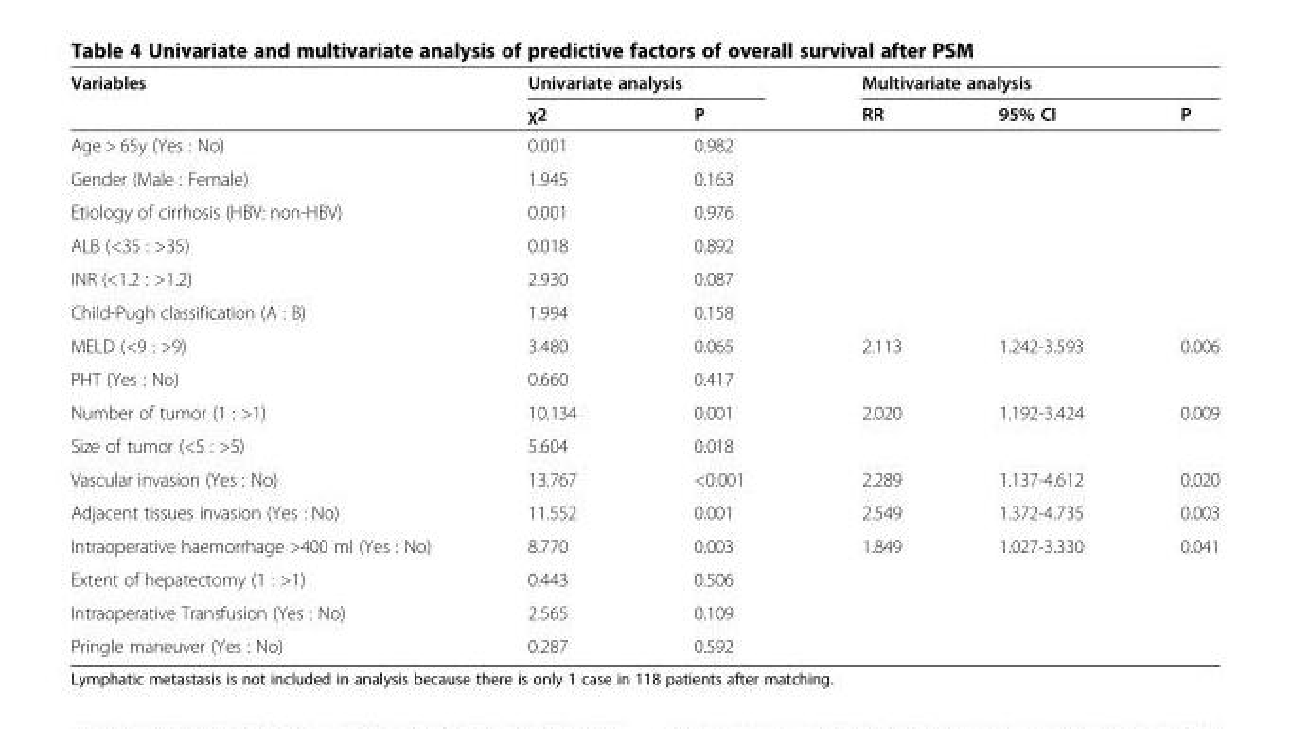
<table><thead><tr><td rowspan="2">Variables</td><td colspan="2">Univariate analysis</td><td colspan="3">Multivariate analysis</td></tr><tr><td>χ2</td><td>P</td><td>RR</td><td>95% CI</td><td>P</td></tr></thead><tbody><tr><td>Age &gt; 65y (Yes : No)</td><td>0.001</td><td>0.982</td><td></td><td></td><td></td></tr><tr><td>Gender (Male : Female)</td><td>1.945</td><td>0.163</td><td></td><td></td><td></td></tr><tr><td>Etiology of cirrhosis (HBV: non-HBV)</td><td>0.001</td><td>0.976</td><td></td><td></td><td></td></tr><tr><td>ALB (&lt;35 : &gt;35)</td><td>0.018</td><td>0.892</td><td></td><td></td><td></td></tr><tr><td>INR (&lt;1.2 : &gt;1.2)</td><td>2.930</td><td>0.087</td><td></td><td></td><td></td></tr><tr><td>Child-Pugh classification (A : B)</td><td>1.994</td><td>0.158</td><td></td><td></td><td></td></tr><tr><td>MELD (&lt;9 : &gt;9)</td><td>3.480</td><td>0.065</td><td>2.113</td><td>1.242-3.593</td><td>0.006</td></tr><tr><td>PHT (Yes : No)</td><td>0.660</td><td>0.417</td><td></td><td></td><td></td></tr><tr><td>Number of tumor (1 : &gt;1)</td><td>10.134</td><td>0.001</td><td>2.020</td><td>1.192-3.424</td><td>0.009</td></tr><tr><td>Size of tumor (&lt;5 : &gt;5)</td><td>5.604</td><td>0.018</td><td></td><td></td><td></td></tr><tr><td>Vascular invasion (Yes : No)</td><td>13.767</td><td>&lt;0.001</td><td>2.289</td><td>1.137-4.612</td><td>0.020</td></tr><tr><td>Adjacent tissues invasion (Yes : No)</td><td>11.552</td><td>0.001</td><td>2.549</td><td>1.372-4.735</td><td>0.003</td></tr><tr><td>Intraoperative haemorrhage &gt;400 ml (Yes : No)</td><td>8.770</td><td>0.003</td><td>1.849</td><td>1.027-3.330</td><td>0.041</td></tr><tr><td>Extent of hepatectomy (1 : &gt;1)</td><td>0.443</td><td>0.506</td><td></td><td></td><td></td></tr><tr><td>Intraoperative Transfusion (Yes : No)</td><td>2.565</td><td>0.109</td><td></td><td></td><td></td></tr><tr><td>Pringle maneuver (Yes : No)</td><td>0.287</td><td>0.592</td><td></td><td></td><td></td></tr></tbody></table>